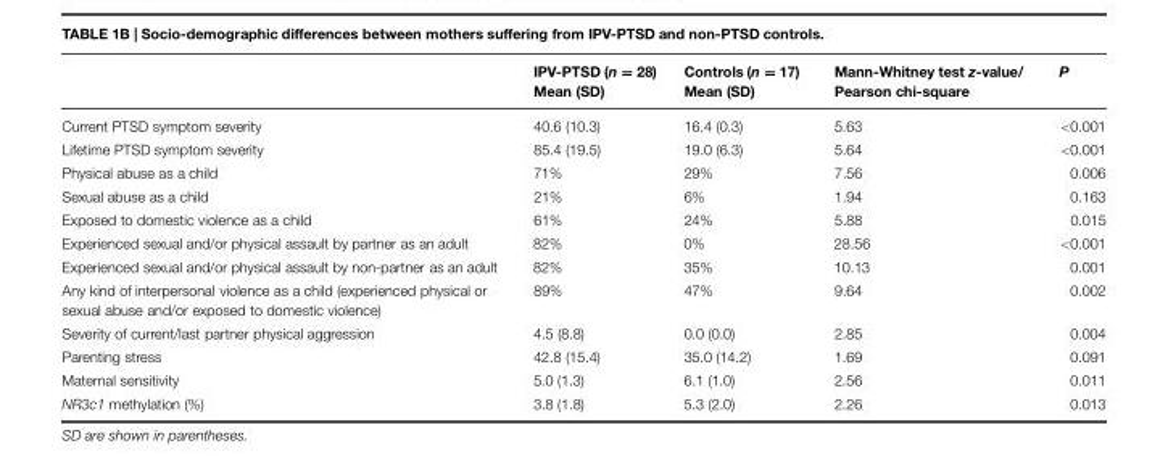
<table><thead><tr><td></td><td>IPV-PTSD (n = 28) Mean (SD)</td><td>Controls (n = 17) Mean (SD)</td><td>Mann-Whitney test z-value/ Pearson chi-square</td><td>P</td></tr></thead><tbody><tr><td>Current PTSD symptom severity</td><td>40.6 (10.3)</td><td>16.4 (0.3)</td><td>5.63</td><td>&lt;0.001</td></tr><tr><td>Lifetime PTSD symptom severity</td><td>85.4 (19.5)</td><td>19.0 (6.3)</td><td>5.64</td><td>&lt;0.001</td></tr><tr><td>Physical abuse as a child</td><td>71%</td><td>29%</td><td>7.56</td><td>0.006</td></tr><tr><td>Sexual abuse as a child</td><td>21%</td><td>6%</td><td>1.94</td><td>0.163</td></tr><tr><td>Exposed to domestic violence as a child</td><td>61%</td><td>24%</td><td>5.88</td><td>0.015</td></tr><tr><td>Experienced sexual and/or physical assault by partner as an adult</td><td>82%</td><td>0%</td><td>28.56</td><td>&lt;0.001</td></tr><tr><td>Experienced sexual and/or physical assault by non-partner as an adult</td><td>82%</td><td>35%</td><td>10.13</td><td>0.001</td></tr><tr><td>Any kind of interpersonal violence as a child (experienced physical or sexual abuse and/or exposed to domestic violence)</td><td>89%</td><td>47%</td><td>9.64</td><td>0.002</td></tr><tr><td>Severity of current/last partner physical aggression</td><td>4.5 (8.8)</td><td>0.0 (0.0)</td><td>2.85</td><td>0.004</td></tr><tr><td>Parenting stress</td><td>42.8 (15.4)</td><td>35.0 (14.2)</td><td>1.69</td><td>0.091</td></tr><tr><td>Maternal sensitivity</td><td>5.0 (1.3)</td><td>6.1 (1.0)</td><td>2.56</td><td>0.011</td></tr><tr><td>NR3c1 methylation (%)</td><td>3.8 (1.8)</td><td>5.3 (2.0)</td><td>2.26</td><td>0.013</td></tr></tbody></table>